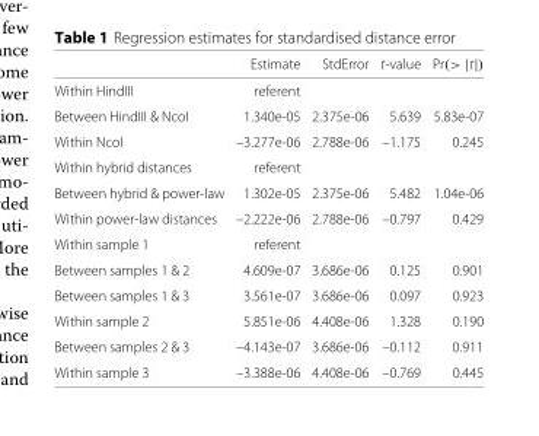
<table><thead><tr><td></td><td>Estimate</td><td>StdError</td><td>t-value</td><td>Pr(&gt; |t|)</td></tr></thead><tbody><tr><td>Within HindIII</td><td>referent</td><td></td><td></td><td></td></tr><tr><td>Between HindIII &amp; NcoI</td><td>1.340e-05</td><td>2.375e-06</td><td>5.639</td><td>5.83e-07</td></tr><tr><td>Within NcoI</td><td>–3.277e-06</td><td>2.788e-06</td><td>–1.175</td><td>0.245</td></tr><tr><td>Within hybrid distances</td><td>referent</td><td></td><td></td><td></td></tr><tr><td>Between hybrid &amp; power-law</td><td>1.302e-05</td><td>2.375e-06</td><td>5.482</td><td>1.04e-06</td></tr><tr><td>Within power-law distances</td><td>–2.222e-06</td><td>2.788e-06</td><td>–0.797</td><td>0.429</td></tr><tr><td>Within sample 1</td><td>referent</td><td></td><td></td><td></td></tr><tr><td>Between samples 1 &amp; 2</td><td>4.609e-07</td><td>3.686e-06</td><td>0.125</td><td>0.901</td></tr><tr><td>Between samples 1 &amp; 3</td><td>3.561e-07</td><td>3.686e-06</td><td>0.097</td><td>0.923</td></tr><tr><td>Within sample 2</td><td>5.851e-06</td><td>4.408e-06</td><td>1.328</td><td>0.190</td></tr><tr><td>Between samples 2 &amp; 3</td><td>–4.143e-07</td><td>3.686e-06</td><td>–0.112</td><td>0.911</td></tr><tr><td>Within sample 3</td><td>–3.388e-06</td><td>4.408e-06</td><td>–0.769</td><td>0.445</td></tr></tbody></table>